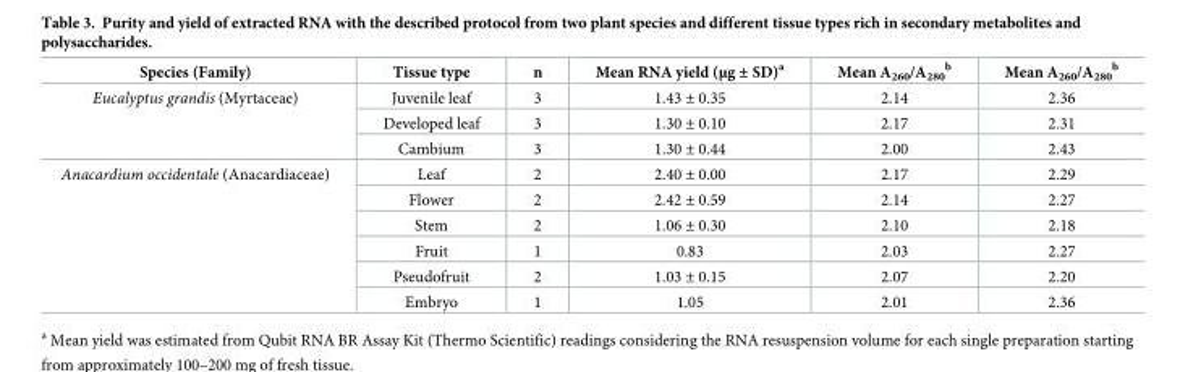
<table><thead><tr><td>Species (Family)</td><td>Tissue type</td><td>n</td><td>Mean RNA yield (μg ± SD)<sup>a</sup></td><td>Mean A<sub>260</sub>/A<sub>280</sub> <sup>b</sup></td><td>Mean A<sub>260</sub>/A<sub>280</sub> <sup>b</sup></td></tr></thead><tbody><tr><td rowspan="3">Eucalyptus grandis (Myrtaceae)</td><td>Juvenile leaf</td><td>3</td><td>1.43 ± 0.35</td><td>2.14</td><td>2.36</td></tr><tr><td>Developed leaf</td><td>3</td><td>1.30 ± 0.10</td><td>2.17</td><td>2.31</td></tr><tr><td>Cambium</td><td>3</td><td>1.30 ± 0.44</td><td>2.00</td><td>2.43</td></tr><tr><td rowspan="6">Anacardium occidentale (Anacardiaceae)</td><td>Leaf</td><td>2</td><td>2.40 ± 0.00</td><td>2.17</td><td>2.29</td></tr><tr><td>Flower</td><td>2</td><td>2.42 ± 0.59</td><td>2.14</td><td>2.27</td></tr><tr><td>Stem</td><td>2</td><td>1.06 ± 0.30</td><td>2.10</td><td>2.18</td></tr><tr><td>Fruit</td><td>1</td><td>0.83</td><td>2.03</td><td>2.27</td></tr><tr><td>Pseudofruit</td><td>2</td><td>1.03 ± 0.15</td><td>2.07</td><td>2.20</td></tr><tr><td>Embryo</td><td>1</td><td>1.05</td><td>2.01</td><td>2.36</td></tr></tbody></table>